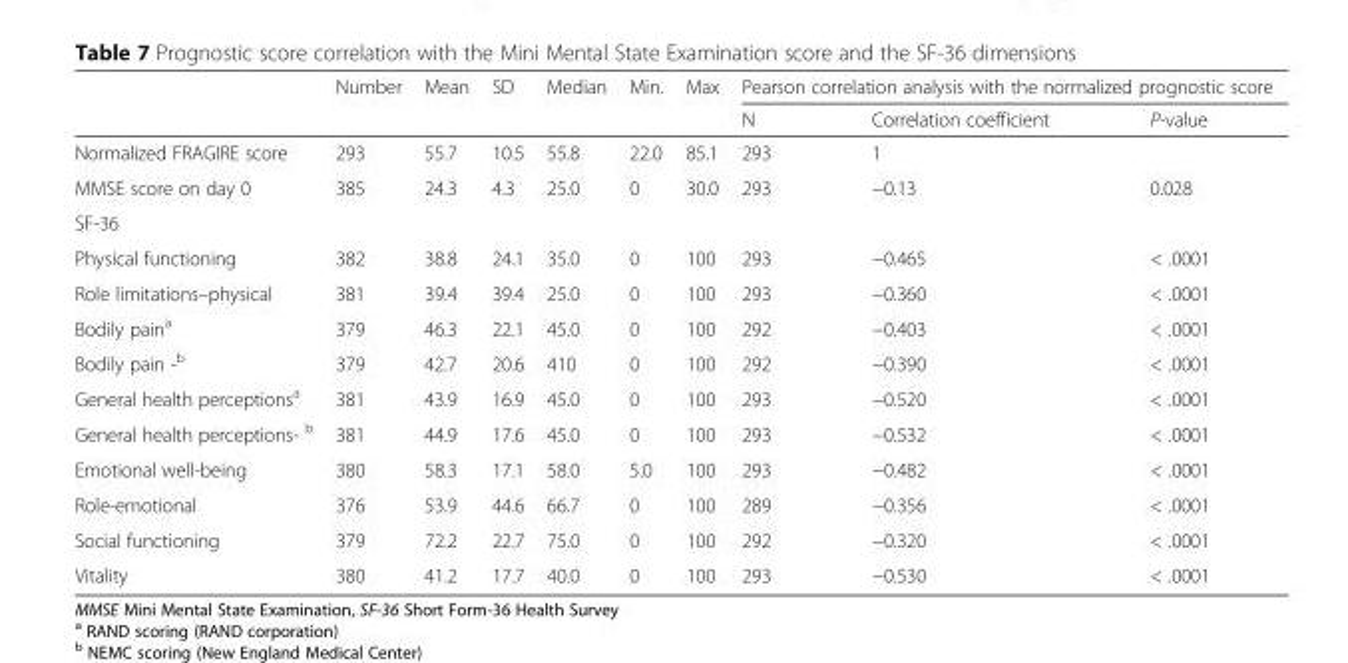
<table><thead><tr><td rowspan="2"></td><td rowspan="2">Number</td><td rowspan="2">Mean</td><td rowspan="2">SD</td><td rowspan="2">Median</td><td rowspan="2">Min.</td><td rowspan="2">Max</td><td colspan="3">Pearson correlation analysis with the normalized prognostic score</td></tr><tr><td>N</td><td>Correlation coefficient</td><td>P-value</td></tr></thead><tbody><tr><td>Normalized FRAGIRE score</td><td>293</td><td>55.7</td><td>10.5</td><td>55.8</td><td>22.0</td><td>85.1</td><td>293</td><td>1</td><td></td></tr><tr><td>MMSE score on day 0</td><td>385</td><td>24.3</td><td>4.3</td><td>25.0</td><td>0</td><td>30.0</td><td>293</td><td>−0.13</td><td>0.028</td></tr><tr><td colspan="10">SF-36</td></tr><tr><td>Physical functioning</td><td>382</td><td>38.8</td><td>24.1</td><td>35.0</td><td>0</td><td>100</td><td>293</td><td>−0.465</td><td>&lt; .0001</td></tr><tr><td>Role limitations–physical</td><td>381</td><td>39.4</td><td>39.4</td><td>25.0</td><td>0</td><td>100</td><td>293</td><td>−0.360</td><td>&lt; .0001</td></tr><tr><td>Bodily pain<sup>a</sup></td><td>379</td><td>46.3</td><td>22.1</td><td>45.0</td><td>0</td><td>100</td><td>292</td><td>−0.403</td><td>&lt; .0001</td></tr><tr><td>Bodily pain -<sup>b</sup></td><td>379</td><td>42.7</td><td>20.6</td><td>410</td><td>0</td><td>100</td><td>292</td><td>−0.390</td><td>&lt; .0001</td></tr><tr><td>General health perceptions<sup>a</sup></td><td>381</td><td>43.9</td><td>16.9</td><td>45.0</td><td>0</td><td>100</td><td>293</td><td>−0.520</td><td>&lt; .0001</td></tr><tr><td>General health perceptions- <sup>b</sup></td><td>381</td><td>44.9</td><td>17.6</td><td>45.0</td><td>0</td><td>100</td><td>293</td><td>−0.532</td><td>&lt; .0001</td></tr><tr><td>Emotional well-being</td><td>380</td><td>58.3</td><td>17.1</td><td>58.0</td><td>5.0</td><td>100</td><td>293</td><td>−0.482</td><td>&lt; .0001</td></tr><tr><td>Role-emotional</td><td>376</td><td>53.9</td><td>44.6</td><td>66.7</td><td>0</td><td>100</td><td>289</td><td>−0.356</td><td>&lt; .0001</td></tr><tr><td>Social functioning</td><td>379</td><td>72.2</td><td>22.7</td><td>75.0</td><td>0</td><td>100</td><td>292</td><td>−0.320</td><td>&lt; .0001</td></tr><tr><td>Vitality</td><td>380</td><td>41.2</td><td>17.7</td><td>40.0</td><td>0</td><td>100</td><td>293</td><td>−0.530</td><td>&lt; .0001</td></tr></tbody></table>